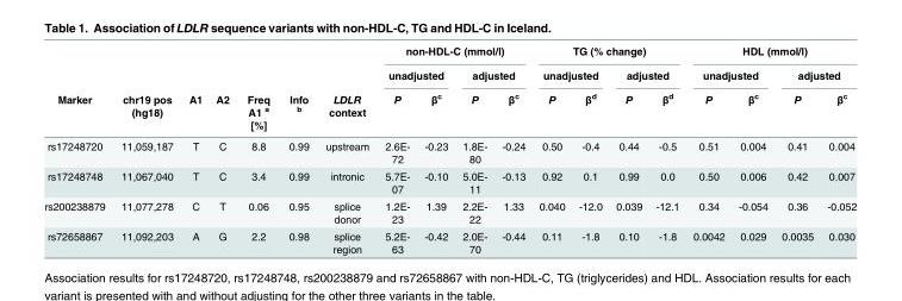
<table><thead><tr><td rowspan="3">Marker</td><td rowspan="3">chr19 pos (hg18)</td><td rowspan="3">A1</td><td rowspan="3">A2</td><td rowspan="3">Freq A1 <sup>a</sup> [%]</td><td rowspan="3">Info <sup>b</sup></td><td rowspan="3">LDLR context</td><td colspan="4">non-HDL-C (mmol/l)</td><td colspan="4">TG (% change)</td><td colspan="4">HDL (mmol/l)</td></tr><tr><td colspan="2">unadjusted</td><td colspan="2">adjusted</td><td colspan="2">unadjusted</td><td colspan="2">adjusted</td><td colspan="2">unadjusted</td><td colspan="2">adjusted</td></tr><tr><td>P</td><td>β<sup>c</sup></td><td>P</td><td>β<sup>c</sup></td><td>P</td><td>β<sup>d</sup></td><td>P</td><td>β<sup>d</sup></td><td>P</td><td>β<sup>c</sup></td><td>P</td><td>β<sup>c</sup></td></tr></thead><tbody><tr><td>rs17248720</td><td>11,059,187</td><td>T</td><td>C</td><td>8.8</td><td>0.99</td><td>upstream</td><td>2.6E- 72</td><td>-0.23</td><td>1.8E- 80</td><td>-0.24</td><td>0.50</td><td>-0.4</td><td>0.44</td><td>-0.5</td><td>0.51</td><td>0.004</td><td>0.41</td><td>0.004</td></tr><tr><td>rs17248748</td><td>11,067,040</td><td>T</td><td>C</td><td>3.4</td><td>0.99</td><td>intronic</td><td>5.7E- 07</td><td>-0.10</td><td>5.0E- 11</td><td>-0.13</td><td>0.92</td><td>0.1</td><td>0.99</td><td>0.0</td><td>0.50</td><td>0.006</td><td>0.42</td><td>0.007</td></tr><tr><td>rs200238879</td><td>11,077,278</td><td>C</td><td>T</td><td>0.06</td><td>0.95</td><td>splice donor</td><td>1.2E- 23</td><td>1.39</td><td>2.2E- 22</td><td>1.33</td><td>0.040</td><td>-12.0</td><td>0.039</td><td>-12.1</td><td>0.34</td><td>-0.054</td><td>0.36</td><td>-0.052</td></tr><tr><td>rs72658867</td><td>11,092,203</td><td>A</td><td>G</td><td>2.2</td><td>0.98</td><td>splice region</td><td>5.2E- 63</td><td>-0.42</td><td>2.0E- 70</td><td>-0.44</td><td>0.11</td><td>-1.8</td><td>0.10</td><td>-1.8</td><td>0.0042</td><td>0.029</td><td>0.0035</td><td>0.030</td></tr></tbody></table>